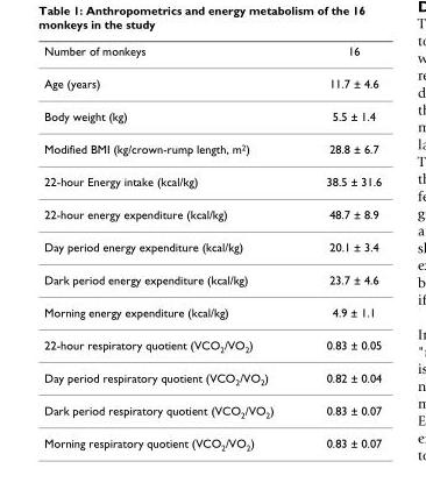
<table><thead><tr><td>Number of monkeys</td><td>16</td></tr></thead><tbody><tr><td>Age (years)</td><td>11.7 ± 4.6</td></tr><tr><td>Body weight (kg)</td><td>5.5 ± 1.4</td></tr><tr><td>Modified BMI (kg/crown-rump length, m2)</td><td>28.8 ± 6.7</td></tr><tr><td>22-hour Energy intake (kcal/kg)</td><td>38.5 ± 31.6</td></tr><tr><td>22-hour energy expenditure (kcal/kg)</td><td>48.7 ± 8.9</td></tr><tr><td>Day period energy expenditure (kcal/kg)</td><td>20.1 ± 3.4</td></tr><tr><td>Dark period energy expenditure (kcal/kg)</td><td>23.7 ± 4.6</td></tr><tr><td>Morning energy expenditure (kcal/kg)</td><td>4.9 ± 1.1</td></tr><tr><td>22-hour respiratory quotient (VCO<sub>2</sub>/VO<sub>2</sub>)</td><td>0.83 ± 0.05</td></tr><tr><td>Day period respiratory quotient (VCO<sub>2</sub>/VO<sub>2</sub>)</td><td>0.82 ± 0.04</td></tr><tr><td>Dark period respiratory quotient (VCO<sub>2</sub>/VO<sub>2</sub>)</td><td>0.83 ± 0.07</td></tr><tr><td>Morning respiratory quotient (VCO<sub>2</sub>/VO<sub>2</sub>)</td><td>0.83 ± 0.07</td></tr></tbody></table>